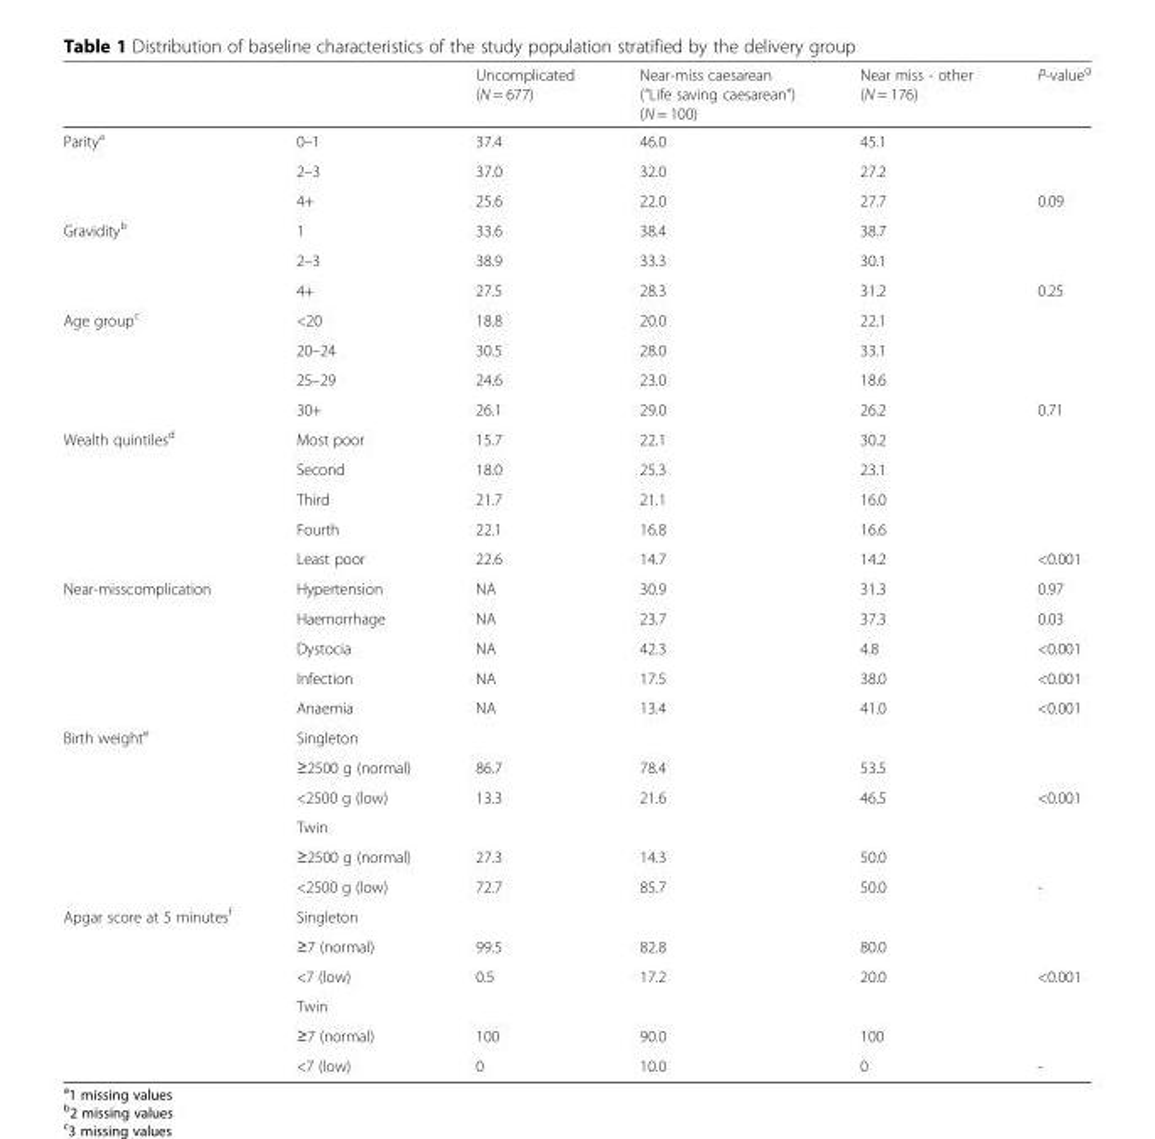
<table><thead><tr><td></td><td></td><td>Uncomplicated (N = 677)</td><td>Near-miss caesarean (“Life saving caesarean”) (N = 100)</td><td>Near miss - other (N = 176)</td><td>P-value<sup>g</sup></td></tr></thead><tbody><tr><td rowspan="3">Parity<sup>a</sup></td><td>0–1</td><td>37.4</td><td>46.0</td><td>45.1</td><td></td></tr><tr><td>2–3</td><td>37.0</td><td>32.0</td><td>27.2</td><td></td></tr><tr><td>4+</td><td>25.6</td><td>22.0</td><td>27.7</td><td>0.09</td></tr><tr><td rowspan="3">Gravidity<sup>b</sup></td><td>1</td><td>33.6</td><td>38.4</td><td>38.7</td><td></td></tr><tr><td>2–3</td><td>38.9</td><td>33.3</td><td>30.1</td><td></td></tr><tr><td>4+</td><td>27.5</td><td>28.3</td><td>31.2</td><td>0.25</td></tr><tr><td rowspan="4">Age group<sup>c</sup></td><td>&lt;20</td><td>18.8</td><td>20.0</td><td>22.1</td><td></td></tr><tr><td>20–24</td><td>30.5</td><td>28.0</td><td>33.1</td><td></td></tr><tr><td>25–29</td><td>24.6</td><td>23.0</td><td>18.6</td><td></td></tr><tr><td>30+</td><td>26.1</td><td>29.0</td><td>26.2</td><td>0.71</td></tr><tr><td rowspan="5">Wealth quintiles<sup>d</sup></td><td>Most poor</td><td>15.7</td><td>22.1</td><td>30.2</td><td></td></tr><tr><td>Second</td><td>18.0</td><td>25.3</td><td>23.1</td><td></td></tr><tr><td>Third</td><td>21.7</td><td>21.1</td><td>16.0</td><td></td></tr><tr><td>Fourth</td><td>22.1</td><td>16.8</td><td>16.6</td><td></td></tr><tr><td>Least poor</td><td>22.6</td><td>14.7</td><td>14.2</td><td>&lt;0.001</td></tr><tr><td rowspan="5">Near-misscomplication</td><td>Hypertension</td><td>NA</td><td>30.9</td><td>31.3</td><td>0.97</td></tr><tr><td>Haemorrhage</td><td>NA</td><td>23.7</td><td>37.3</td><td>0.03</td></tr><tr><td>Dystocia</td><td>NA</td><td>42.3</td><td>4.8</td><td>&lt;0.001</td></tr><tr><td>Infection</td><td>NA</td><td>17.5</td><td>38.0</td><td>&lt;0.001</td></tr><tr><td>Anaemia</td><td>NA</td><td>13.4</td><td>41.0</td><td>&lt;0.001</td></tr><tr><td rowspan="6">Birth weight<sup>e</sup></td><td>Singleton</td><td></td><td></td><td></td><td></td></tr><tr><td>≥2500 g (normal)</td><td>86.7</td><td>78.4</td><td>53.5</td><td></td></tr><tr><td>&lt;2500 g (low)</td><td>13.3</td><td>21.6</td><td>46.5</td><td>&lt;0.001</td></tr><tr><td>Twin</td><td></td><td></td><td></td><td></td></tr><tr><td>≥2500 g (normal)</td><td>27.3</td><td>14.3</td><td>50.0</td><td></td></tr><tr><td>&lt;2500 g (low)</td><td>72.7</td><td>85.7</td><td>50.0</td><td>-</td></tr><tr><td rowspan="6">Apgar score at 5 minutes<sup>f</sup></td><td>Singleton</td><td></td><td></td><td></td><td></td></tr><tr><td>≥7 (normal)</td><td>99.5</td><td>82.8</td><td>80.0</td><td></td></tr><tr><td>&lt;7 (low)</td><td>0.5</td><td>17.2</td><td>20.0</td><td>&lt;0.001</td></tr><tr><td>Twin</td><td></td><td></td><td></td><td></td></tr><tr><td>≥7 (normal)</td><td>100</td><td>90.0</td><td>100</td><td></td></tr><tr><td>&lt;7 (low)</td><td>0</td><td>10.0</td><td>0</td><td>-</td></tr></tbody></table>